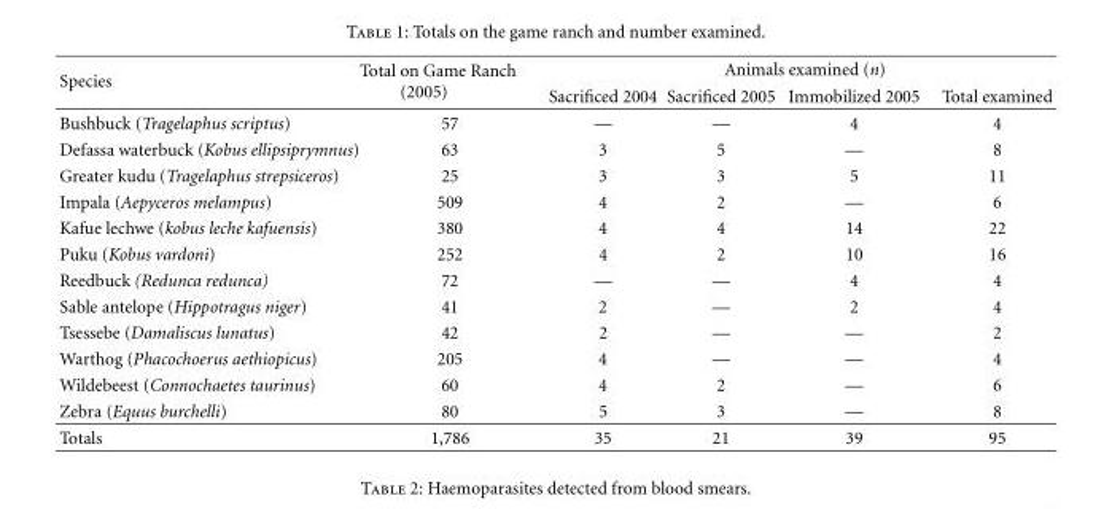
<table><thead><tr><td rowspan="2">Species</td><td rowspan="2">Total on Game Ranch (2005)</td><td colspan="4">Animals examined (n)</td></tr><tr><td>Sacrificed 2004</td><td>Sacrificed 2005</td><td>Immobilized 2005</td><td>Total examined</td></tr></thead><tbody><tr><td>Bushbuck (Tragelaphus scriptus)</td><td>57</td><td>—</td><td>—</td><td>4</td><td>4</td></tr><tr><td>Defassa waterbuck (Kobus ellipsiprymnus)</td><td>63</td><td>3</td><td>5</td><td>—</td><td>8</td></tr><tr><td>Greater kudu (Tragelaphus strepsiceros)</td><td>25</td><td>3</td><td>3</td><td>5</td><td>11</td></tr><tr><td>Impala (Aepyceros melampus)</td><td>509</td><td>4</td><td>2</td><td>—</td><td>6</td></tr><tr><td>Kafue lechwe (kobus leche kafuensis)</td><td>380</td><td>4</td><td>4</td><td>14</td><td>22</td></tr><tr><td>Puku (Kobus vardoni)</td><td>252</td><td>4</td><td>2</td><td>10</td><td>16</td></tr><tr><td>Reedbuck (Redunca redunca)</td><td>72</td><td>—</td><td>—</td><td>4</td><td>4</td></tr><tr><td>Sable antelope (Hippotragus niger)</td><td>41</td><td>2</td><td>—</td><td>2</td><td>4</td></tr><tr><td>Tsessebe (Damaliscus lunatus)</td><td>42</td><td>2</td><td>—</td><td>—</td><td>2</td></tr><tr><td>Warthog (Phacochoerus aethiopicus)</td><td>205</td><td>4</td><td>—</td><td>—</td><td>4</td></tr><tr><td>Wildebeest (Connochaetes taurinus)</td><td>60</td><td>4</td><td>2</td><td>—</td><td>6</td></tr><tr><td>Zebra (Equus burchelli)</td><td>80</td><td>5</td><td>3</td><td>—</td><td>8</td></tr><tr><td>Totals</td><td>1,786</td><td>35</td><td>21</td><td>39</td><td>95</td></tr></tbody></table>